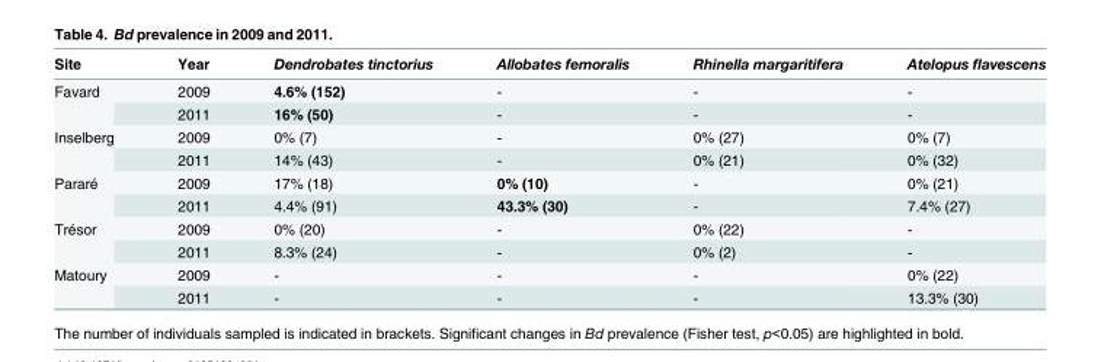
<table><thead><tr><td>Site</td><td>Year</td><td>Dendrobates tinctorius</td><td>Allobates femoralis</td><td>Rhinella margaritifera</td><td>Atelopus flavescens</td></tr></thead><tbody><tr><td rowspan="2">Favard</td><td>2009</td><td>4.6% (152)</td><td>-</td><td>-</td><td>-</td></tr><tr><td>2011</td><td>16% (50)</td><td>-</td><td>-</td><td>-</td></tr><tr><td rowspan="2">Inselberg</td><td>2009</td><td>0% (7)</td><td>-</td><td>0% (27)</td><td>0% (7)</td></tr><tr><td>2011</td><td>14% (43)</td><td>-</td><td>0% (21)</td><td>0% (32)</td></tr><tr><td rowspan="2">Pararé</td><td>2009</td><td>17% (18)</td><td>0% (10)</td><td>-</td><td>0% (21)</td></tr><tr><td>2011</td><td>4.4% (91)</td><td>43.3% (30)</td><td>-</td><td>7.4% (27)</td></tr><tr><td rowspan="2">Trésor</td><td>2009</td><td>0% (20)</td><td>-</td><td>0% (22)</td><td>-</td></tr><tr><td>2011</td><td>8.3% (24)</td><td>-</td><td>0% (2)</td><td>-</td></tr><tr><td rowspan="2">Matoury</td><td>2009</td><td>-</td><td>-</td><td>-</td><td>0% (22)</td></tr><tr><td>2011</td><td>-</td><td>-</td><td>-</td><td>13.3% (30)</td></tr></tbody></table>